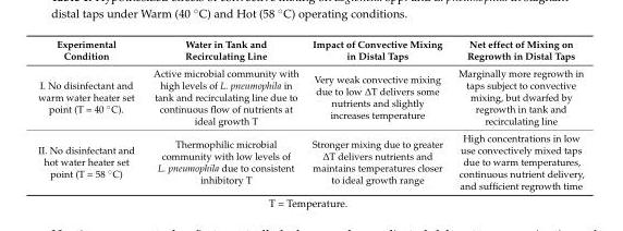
<table><thead><tr><td>Experimental Condition</td><td>Water in Tank and Recirculating Line</td><td>Impact of Convective Mixing in Distal Taps</td><td>Net effect of Mixing on Regrowth in Distal Taps</td></tr></thead><tbody><tr><td>I. No disinfectant and warm water heater set point (T = 40 ˝C).</td><td>Active microbial community with high levels of L. pneumophila in tank and recirculating line due to continuous flow of nutrients at ideal growth T</td><td>Very weak convective mixing due to low ∆T delivers some nutrients and slightly increases temperature</td><td>Marginally more regrowth in taps subject to convective mixing, but dwarfed by regrowth in tank and recirculating line</td></tr><tr><td>II. No disinfectant and hot water heater set point (T = 58 ˝C)</td><td>Thermophilic microbial community with low levels of L. pneumophila due to consistent inhibitory T</td><td>Stronger mixing due to greater ∆T delivers nutrients and maintains temperatures closer to ideal growth range</td><td>High concentrations in low use convectively mixed taps due to warm temperatures, continuous nutrient delivery, and sufficient regrowth time</td></tr></tbody></table>